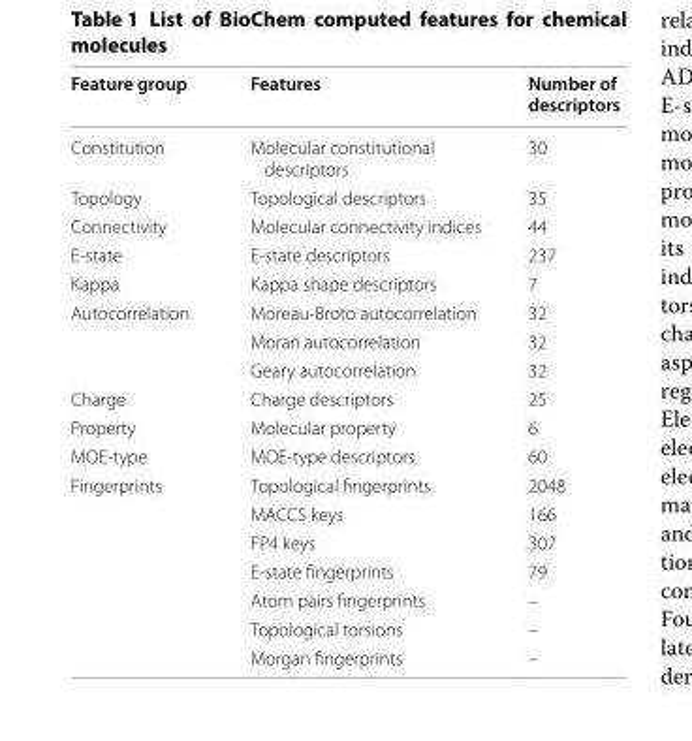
<table><thead><tr><td>Feature group</td><td>Features</td><td>Number of descriptors</td></tr></thead><tbody><tr><td>Constitution</td><td>Molecular constitutional descriptors</td><td>30</td></tr><tr><td>Topology</td><td>Topological descriptors</td><td>35</td></tr><tr><td>Connectivity</td><td>Molecular connectivity indices</td><td>44</td></tr><tr><td>E‑state</td><td>E‑state descriptors</td><td>237</td></tr><tr><td>Kappa</td><td>Kappa shape descriptors</td><td>7</td></tr><tr><td rowspan="3">Autocorrelation</td><td>Moreau‑Broto autocorrelation</td><td>32</td></tr><tr><td>Moran autocorrelation</td><td>32</td></tr><tr><td>Geary autocorrelation</td><td>32</td></tr><tr><td>Charge</td><td>Charge descriptors</td><td>25</td></tr><tr><td>Property</td><td>Molecular property</td><td>6</td></tr><tr><td>MOE‑type</td><td>MOE‑type descriptors</td><td>60</td></tr><tr><td rowspan="7">Fingerprints</td><td>Topological fingerprints</td><td>2048</td></tr><tr><td>MACCS keys</td><td>166</td></tr><tr><td>FP4 keys</td><td>307</td></tr><tr><td>E‑state fingerprints</td><td>79</td></tr><tr><td>Atom pairs fingerprints</td><td>–</td></tr><tr><td>Topological torsions</td><td>–</td></tr><tr><td>Morgan fingerprints</td><td>–</td></tr></tbody></table>